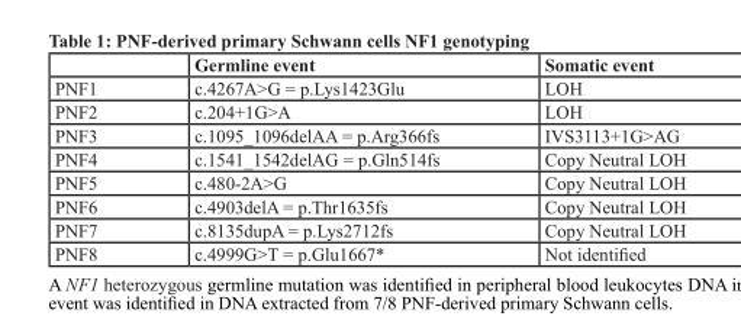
<table><thead><tr><td></td><td>Germline event</td><td>Somatic event</td></tr></thead><tbody><tr><td>PNF1</td><td>c.4267A&gt;G = p.Lys1423Glu</td><td>LOH</td></tr><tr><td>PNF2</td><td>c.204+1G&gt;A</td><td>LOH</td></tr><tr><td>PNF3</td><td>c.1095_1096delAA = p.Arg366fs</td><td>IVS3113+1G&gt;AG</td></tr><tr><td>PNF4</td><td>c.1541_1542delAG = p.Gln514fs</td><td>Copy Neutral LOH</td></tr><tr><td>PNF5</td><td>c.480-2A&gt;G</td><td>Copy Neutral LOH</td></tr><tr><td>PNF6</td><td>c.4903delA = p.Thr1635fs</td><td>Copy Neutral LOH</td></tr><tr><td>PNF7</td><td>c.8135dupA = p.Lys2712fs</td><td>Copy Neutral LOH</td></tr><tr><td>PNF8</td><td>c.4999G&gt;T = p.Glu1667*</td><td>Not identified</td></tr></tbody></table>